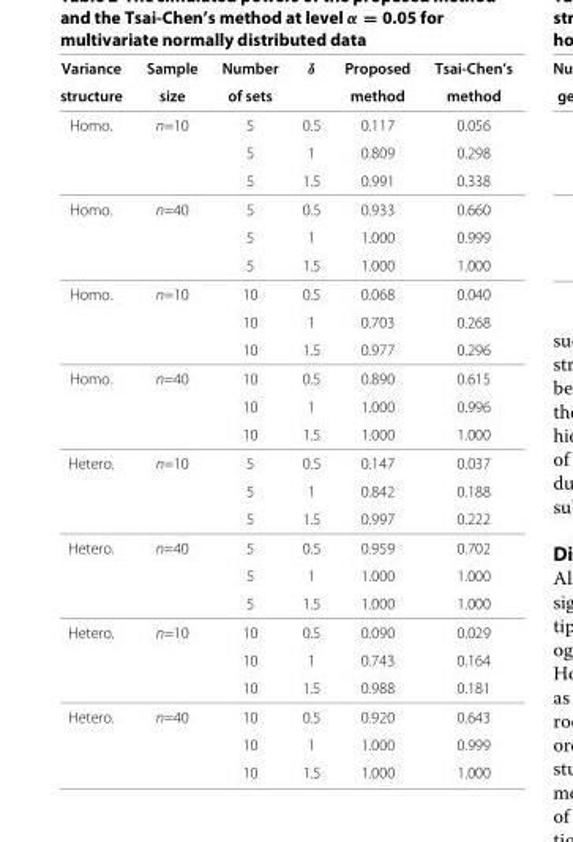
<table><thead><tr><td rowspan="2">Variance structure</td><td rowspan="2">Sample size</td><td rowspan="2">Number of sets</td><td rowspan="2">δ</td><td rowspan="2">Proposed method</td><td rowspan="2">Tsai-Chen’s method</td></tr><tr></tr></thead><tbody><tr><td rowspan="3">Homo.</td><td>n=10</td><td>5</td><td>0.5</td><td>0.117</td><td>0.056</td></tr><tr><td></td><td>5</td><td>1</td><td>0.809</td><td>0.298</td></tr><tr><td></td><td>5</td><td>1.5</td><td>0.991</td><td>0.338</td></tr><tr><td rowspan="3">Homo.</td><td>n=40</td><td>5</td><td>0.5</td><td>0.933</td><td>0.660</td></tr><tr><td></td><td>5</td><td>1</td><td>1.000</td><td>0.999</td></tr><tr><td></td><td>5</td><td>1.5</td><td>1.000</td><td>1.000</td></tr><tr><td rowspan="3">Homo.</td><td>n=10</td><td>10</td><td>0.5</td><td>0.068</td><td>0.040</td></tr><tr><td></td><td>10</td><td>1</td><td>0.703</td><td>0.268</td></tr><tr><td></td><td>10</td><td>1.5</td><td>0.977</td><td>0.296</td></tr><tr><td rowspan="3">Homo.</td><td>n=40</td><td>10</td><td>0.5</td><td>0.890</td><td>0.615</td></tr><tr><td></td><td>10</td><td>1</td><td>1.000</td><td>0.996</td></tr><tr><td></td><td>10</td><td>1.5</td><td>1.000</td><td>1.000</td></tr><tr><td rowspan="3">Hetero.</td><td>n=10</td><td>5</td><td>0.5</td><td>0.147</td><td>0.037</td></tr><tr><td></td><td>5</td><td>1</td><td>0.842</td><td>0.188</td></tr><tr><td></td><td>5</td><td>1.5</td><td>0.997</td><td>0.222</td></tr><tr><td rowspan="3">Hetero.</td><td>n=40</td><td>5</td><td>0.5</td><td>0.959</td><td>0.702</td></tr><tr><td></td><td>5</td><td>1</td><td>1.000</td><td>1.000</td></tr><tr><td></td><td>5</td><td>1.5</td><td>1.000</td><td>1.000</td></tr><tr><td rowspan="3">Hetero.</td><td>n=10</td><td>10</td><td>0.5</td><td>0.090</td><td>0.029</td></tr><tr><td></td><td>10</td><td>1</td><td>0.743</td><td>0.164</td></tr><tr><td></td><td>10</td><td>1.5</td><td>0.988</td><td>0.181</td></tr><tr><td rowspan="3">Hetero.</td><td>n=40</td><td>10</td><td>0.5</td><td>0.920</td><td>0.643</td></tr><tr><td></td><td>10</td><td>1</td><td>1.000</td><td>0.999</td></tr><tr><td></td><td>10</td><td>1.5</td><td>1.000</td><td>1.000</td></tr></tbody></table>